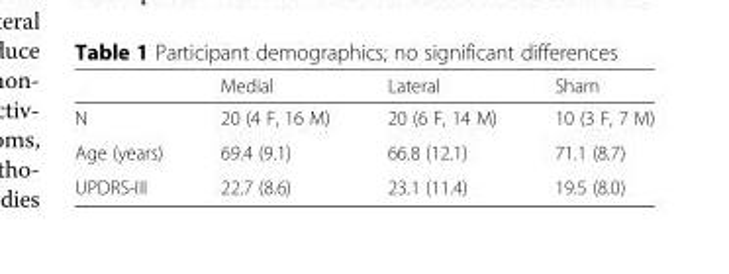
<table><thead><tr><td></td><td>Medial</td><td>Lateral</td><td>Sham</td></tr></thead><tbody><tr><td>N</td><td>20 (4 F, 16 M)</td><td>20 (6 F, 14 M)</td><td>10 (3 F, 7 M)</td></tr><tr><td>Age (years)</td><td>69.4 (9.1)</td><td>66.8 (12.1)</td><td>71.1 (8.7)</td></tr><tr><td>UPDRS-III</td><td>22.7 (8.6)</td><td>23.1 (11.4)</td><td>19.5 (8.0)</td></tr></tbody></table>